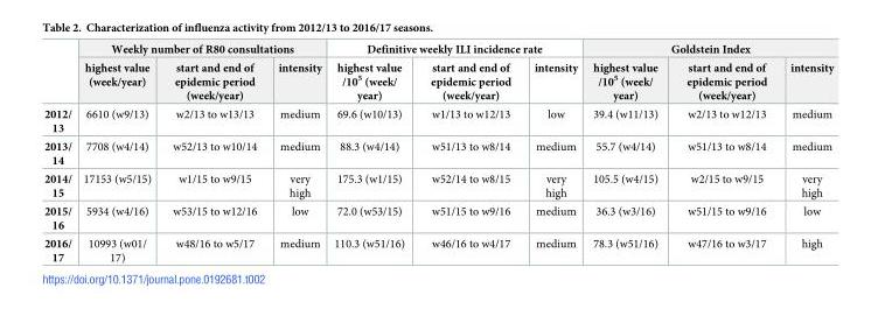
<table><thead><tr><td rowspan="2"></td><td colspan="3">Weekly number of R80 consultations</td><td colspan="3">Definitive weekly ILI incidence rate</td><td colspan="3">Goldstein Index</td></tr><tr><td>highest value (week/year)</td><td>start and end of epidemic period (week/year)</td><td>intensity</td><td>highest value /10<sup>5</sup> (week/ year)</td><td>start and end of epidemic period (week/year)</td><td>intensity</td><td>highest value /10<sup>5</sup> (week/ year)</td><td>start and end of epidemic period (week/year)</td><td>intensity</td></tr></thead><tbody><tr><td>2012/ 13</td><td>6610 (w9/13)</td><td>w2/13 to w13/13</td><td>medium</td><td>69.6 (w10/13)</td><td>w1/13 to w12/13</td><td>low</td><td>39.4 (w11/13)</td><td>w2/13 to w12/13</td><td>medium</td></tr><tr><td>2013/ 14</td><td>7708 (w4/14)</td><td>w52/13 to w10/14</td><td>medium</td><td>88.3 (w4/14)</td><td>w51/13 to w8/14</td><td>medium</td><td>55.7 (w4/14)</td><td>w51/13 to w8/14</td><td>medium</td></tr><tr><td>2014/ 15</td><td>17153 (w5/15)</td><td>w1/15 to w9/15</td><td>very high</td><td>175.3 (w1/15)</td><td>w52/14 to w8/15</td><td>very high</td><td>105.5 (w4/15)</td><td>w2/15 to w9/15</td><td>very high</td></tr><tr><td>2015/ 16</td><td>5934 (w4/16)</td><td>w53/15 to w12/16</td><td>low</td><td>72.0 (w53/15)</td><td>w51/15 to w9/16</td><td>medium</td><td>36.3 (w3/16)</td><td>w51/15 to w9/16</td><td>low</td></tr><tr><td>2016/ 17</td><td>10993 (w01/ 17)</td><td>w48/16 to w5/17</td><td>medium</td><td>110.3 (w51/16)</td><td>w46/16 to w4/17</td><td>medium</td><td>78.3 (w51/16)</td><td>w47/16 to w3/17</td><td>high</td></tr></tbody></table>